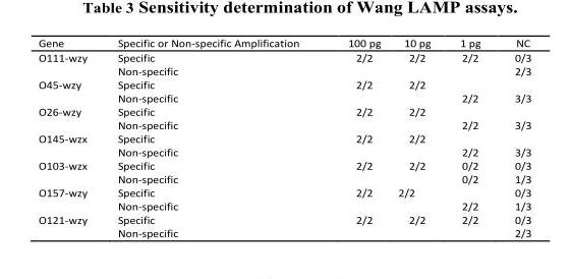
<table><thead><tr><td>Gene</td><td>Specific or Non-specific Amplification</td><td>100 pg</td><td>10 pg</td><td>1 pg</td><td>NC</td></tr></thead><tbody><tr><td rowspan="2">O111-wzy</td><td>Specific</td><td>2/2</td><td>2/2</td><td>2/2</td><td>0/3</td></tr><tr><td>Non-specific</td><td></td><td></td><td></td><td>2/3</td></tr><tr><td rowspan="2">O45-wzy</td><td>Specific</td><td>2/2</td><td>2/2</td><td></td><td></td></tr><tr><td>Non-specific</td><td></td><td></td><td>2/2</td><td>3/3</td></tr><tr><td rowspan="2">O26-wzy</td><td>Specific</td><td>2/2</td><td>2/2</td><td></td><td></td></tr><tr><td>Non-specific</td><td></td><td></td><td>2/2</td><td>3/3</td></tr><tr><td rowspan="2">O145-wzx</td><td>Specific</td><td>2/2</td><td>2/2</td><td></td><td></td></tr><tr><td>Non-specific</td><td></td><td></td><td>2/2</td><td>3/3</td></tr><tr><td rowspan="2">O103-wzx</td><td>Specific</td><td>2/2</td><td>2/2</td><td>0/2</td><td>0/3</td></tr><tr><td>Non-specific</td><td></td><td></td><td>0/2</td><td>1/3</td></tr><tr><td rowspan="2">O157-wzy</td><td>Specific</td><td>2/2</td><td>2/2</td><td></td><td>0/3</td></tr><tr><td>Non-specific</td><td></td><td></td><td>2/2</td><td>1/3</td></tr><tr><td rowspan="2">O121-wzy</td><td>Specific</td><td>2/2</td><td>2/2</td><td>2/2</td><td>0/3</td></tr><tr><td>Non-specific</td><td></td><td></td><td></td><td>2/3</td></tr></tbody></table>